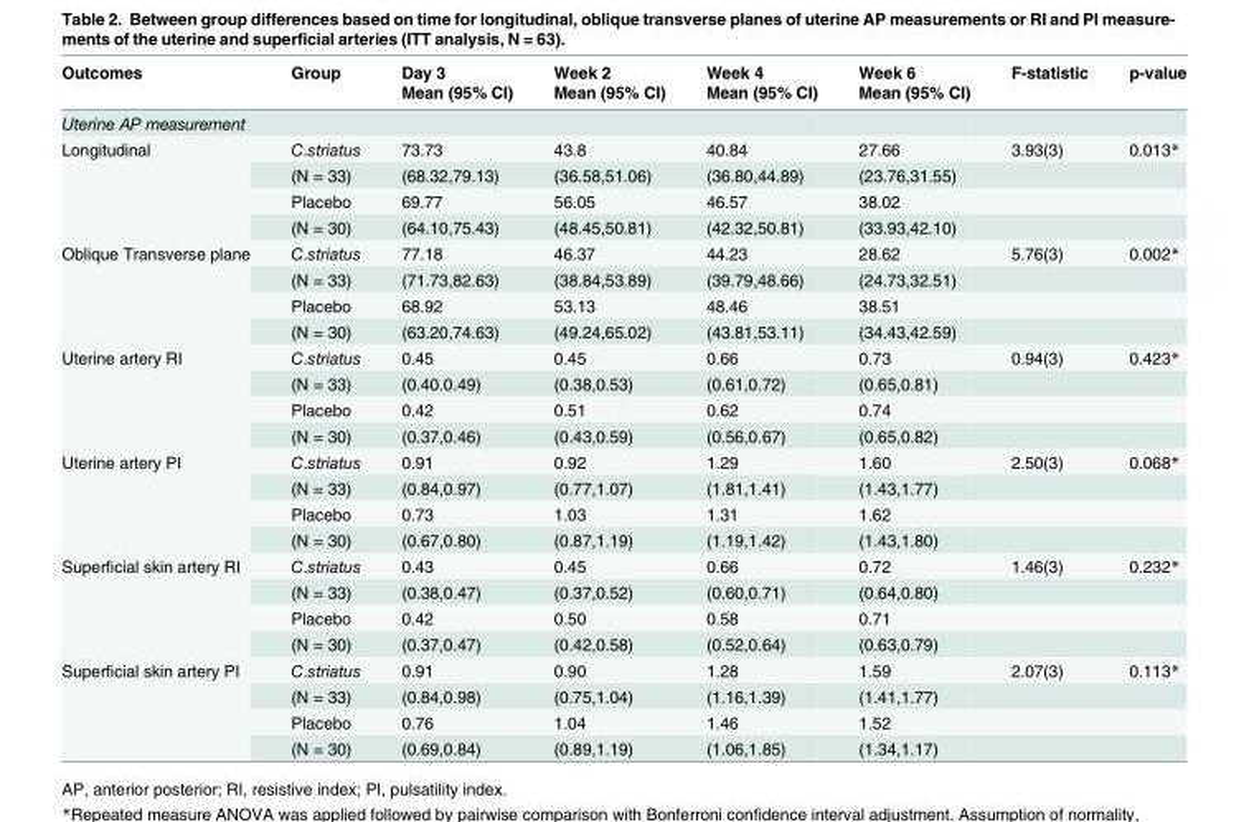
<table><thead><tr><td rowspan="2">Outcomes</td><td rowspan="2">Group</td><td rowspan="2">Day 3 Mean (95% CI)</td><td rowspan="2">Week 2 Mean (95% CI)</td><td rowspan="2">Week 4 Mean (95% CI)</td><td rowspan="2">Week 6 Mean (95% CI)</td><td rowspan="2">F-statistic</td><td rowspan="2">p-value</td></tr><tr></tr></thead><tbody><tr><td colspan="8">Uterine AP measurement</td></tr><tr><td rowspan="4">Longitudinal</td><td>C.striatus</td><td>73.73</td><td>43.8</td><td>40.84</td><td>27.66</td><td>3.93(3)</td><td>0.013*</td></tr><tr><td>(N = 33)</td><td>(68.32,79.13)</td><td>(36.58,51.06)</td><td>(36.80,44.89)</td><td>(23.76,31.55)</td><td></td><td></td></tr><tr><td>Placebo</td><td>69.77</td><td>56.05</td><td>46.57</td><td>38.02</td><td></td><td></td></tr><tr><td>(N = 30)</td><td>(64.10,75.43)</td><td>(48.45,50.81)</td><td>(42.32,50.81)</td><td>(33.93,42.10)</td><td></td><td></td></tr><tr><td rowspan="4">Oblique Transverse plane</td><td>C.striatus</td><td>77.18</td><td>46.37</td><td>44.23</td><td>28.62</td><td>5.76(3)</td><td>0.002*</td></tr><tr><td>(N = 33)</td><td>(71.73,82.63)</td><td>(38.84,53.89)</td><td>(39.79,48.66)</td><td>(24.73,32.51)</td><td></td><td></td></tr><tr><td>Placebo</td><td>68.92</td><td>53.13</td><td>48.46</td><td>38.51</td><td></td><td></td></tr><tr><td>(N = 30)</td><td>(63.20,74.63)</td><td>(49.24,65.02)</td><td>(43.81,53.11)</td><td>(34.43,42.59)</td><td></td><td></td></tr><tr><td rowspan="4">Uterine artery RI</td><td>C.striatus</td><td>0.45</td><td>0.45</td><td>0.66</td><td>0.73</td><td>0.94(3)</td><td>0.423*</td></tr><tr><td>(N = 33)</td><td>(0.40.0.49)</td><td>(0.38,0.53)</td><td>(0.61,0.72)</td><td>(0.65,0.81)</td><td></td><td></td></tr><tr><td>Placebo</td><td>0.42</td><td>0.51</td><td>0.62</td><td>0.74</td><td></td><td></td></tr><tr><td>(N = 30)</td><td>(0.37,0.46)</td><td>(0.43,0.59)</td><td>(0.56,0.67)</td><td>(0.65,0.82)</td><td></td><td></td></tr><tr><td rowspan="4">Uterine artery PI</td><td>C.striatus</td><td>0.91</td><td>0.92</td><td>1.29</td><td>1.60</td><td>2.50(3)</td><td>0.068*</td></tr><tr><td>(N = 33)</td><td>(0.84,0.97)</td><td>(0.77,1.07)</td><td>(1.81,1.41)</td><td>(1.43,1.77)</td><td></td><td></td></tr><tr><td>Placebo</td><td>0.73</td><td>1.03</td><td>1.31</td><td>1.62</td><td></td><td></td></tr><tr><td>(N = 30)</td><td>(0.67,0.80)</td><td>(0.87,1.19)</td><td>(1.19,1.42)</td><td>(1.43,1.80)</td><td></td><td></td></tr><tr><td rowspan="4">Superficial skin artery RI</td><td>C.striatus</td><td>0.43</td><td>0.45</td><td>0.66</td><td>0.72</td><td>1.46(3)</td><td>0.232*</td></tr><tr><td>(N = 33)</td><td>(0.38,0.47)</td><td>(0.37,0.52)</td><td>(0.60,0.71)</td><td>(0.64,0.80)</td><td></td><td></td></tr><tr><td>Placebo</td><td>0.42</td><td>0.50</td><td>0.58</td><td>0.71</td><td></td><td></td></tr><tr><td>(N = 30)</td><td>(0.37,0.47)</td><td>(0.42,0.58)</td><td>(0.52,0.64)</td><td>(0.63,0.79)</td><td></td><td></td></tr><tr><td rowspan="4">Superficial skin artery PI</td><td>C.striatus</td><td>0.91</td><td>0.90</td><td>1.28</td><td>1.59</td><td>2.07(3)</td><td>0.113*</td></tr><tr><td>(N = 33)</td><td>(0.84,0.98)</td><td>(0.75,1.04)</td><td>(1.16,1.39)</td><td>(1.41,1.77)</td><td></td><td></td></tr><tr><td>Placebo</td><td>0.76</td><td>1.04</td><td>1.46</td><td>1.52</td><td></td><td></td></tr><tr><td>(N = 30)</td><td>(0.69,0.84)</td><td>(0.89,1.19)</td><td>(1.06,1.85)</td><td>(1.34,1.17)</td><td></td><td></td></tr></tbody></table>